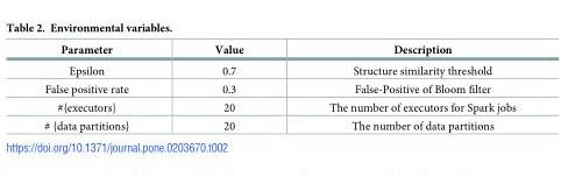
<table><thead><tr><td>Parameter</td><td>Value</td><td>Description</td></tr></thead><tbody><tr><td>Epsilon</td><td>0.7</td><td>Structure similarity threshold</td></tr><tr><td>False positive rate</td><td>0.3</td><td>False-Positive of Bloom filter</td></tr><tr><td>#{executors}</td><td>20</td><td>The number of executors for Spark jobs</td></tr><tr><td># {data partitions}</td><td>20</td><td>The number of data partitions</td></tr></tbody></table>